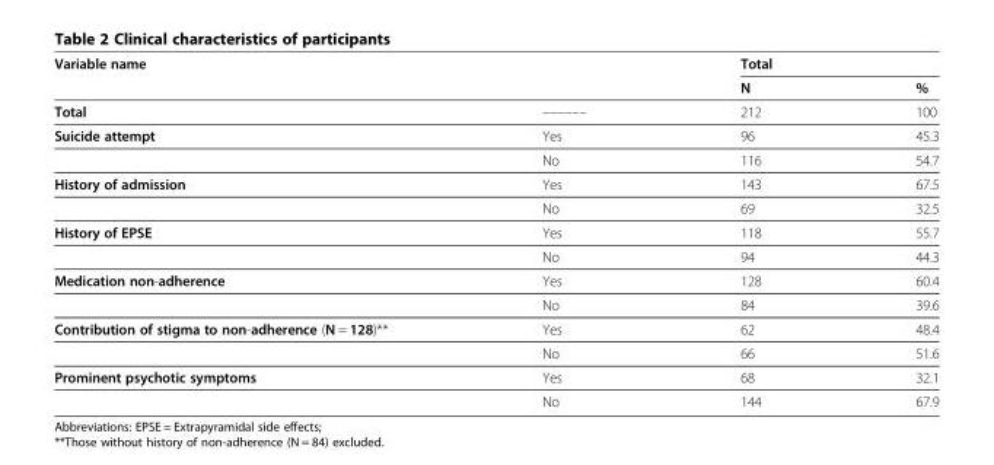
<table><thead><tr><td colspan="2">Variable name</td><td colspan="2">Total</td></tr><tr><td></td><td></td><td>N</td><td>%</td></tr></thead><tbody><tr><td>Total</td><td>––––––</td><td>212</td><td>100</td></tr><tr><td rowspan="2">Suicide attempt</td><td>Yes</td><td>96</td><td>45.3</td></tr><tr><td>No</td><td>116</td><td>54.7</td></tr><tr><td rowspan="2">History of admission</td><td>Yes</td><td>143</td><td>67.5</td></tr><tr><td>No</td><td>69</td><td>32.5</td></tr><tr><td rowspan="2">History of EPSE</td><td>Yes</td><td>118</td><td>55.7</td></tr><tr><td>No</td><td>94</td><td>44.3</td></tr><tr><td rowspan="2">Medication non-adherence</td><td>Yes</td><td>128</td><td>60.4</td></tr><tr><td>No</td><td>84</td><td>39.6</td></tr><tr><td rowspan="2">Contribution of stigma to non-adherence (N = 128)**</td><td>Yes</td><td>62</td><td>48.4</td></tr><tr><td>No</td><td>66</td><td>51.6</td></tr><tr><td rowspan="2">Prominent psychotic symptoms</td><td>Yes</td><td>68</td><td>32.1</td></tr><tr><td>No</td><td>144</td><td>67.9</td></tr></tbody></table>